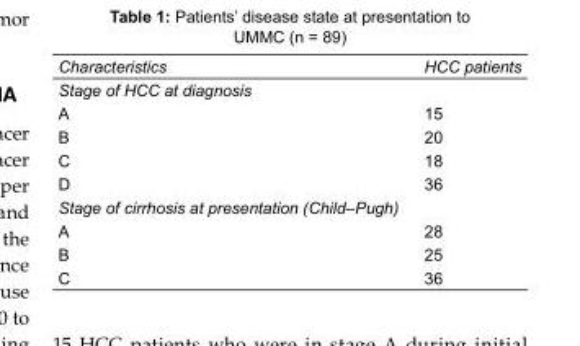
<table><tbody><tr><td>Characteristics</td><td>HCC patients</td></tr><tr><td colspan="2">Stage of HCC at diagnosis</td></tr><tr><td>A</td><td>15</td></tr><tr><td>B</td><td>20</td></tr><tr><td>C</td><td>18</td></tr><tr><td>D</td><td>36</td></tr><tr><td colspan="2">Stage of cirrhosis at presentation (Child–Pugh)</td></tr><tr><td>A</td><td>28</td></tr><tr><td>B</td><td>25</td></tr><tr><td>C</td><td>36</td></tr></tbody></table>